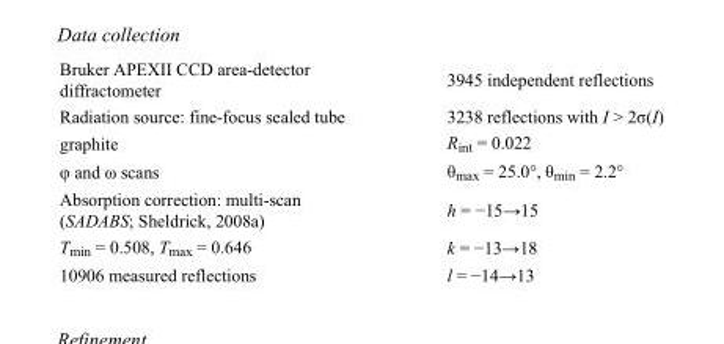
<table><tbody><tr><td>Bruker APEXII CCD area-detector diffractometer</td><td>3945 independent reflections</td></tr><tr><td>Radiation source: fine-focus sealed tube</td><td>3238 reflections with I &gt; 2σ(I)</td></tr><tr><td>graphite</td><td>R<sub>int</sub> = 0.022</td></tr><tr><td>φ and ω scans</td><td>θ<sub>max</sub> = 25.0°, θ<sub>min</sub> = 2.2°</td></tr><tr><td>Absorption correction: multi-scan (SADABS; Sheldrick, 2008a)</td><td>h = −15→15</td></tr><tr><td>T<sub>min</sub> = 0.508, T<sub>max</sub> = 0.646</td><td>k = −13→18</td></tr><tr><td>10906 measured reflections</td><td>l = −14→13</td></tr></tbody></table>